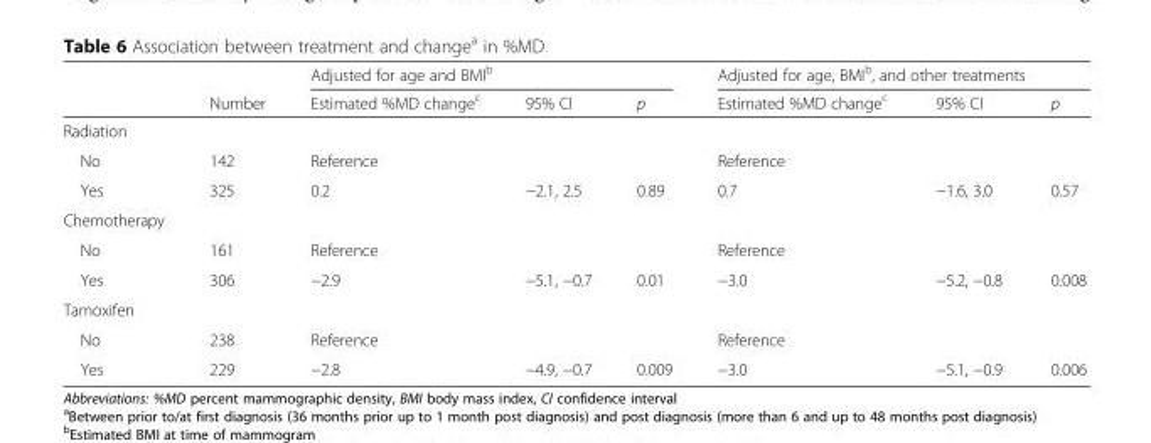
<table><thead><tr><td rowspan="2"></td><td rowspan="2">Number</td><td colspan="3">Adjusted for age and BMI<sup>b</sup></td><td colspan="3">Adjusted for age, BMI<sup>b</sup>, and other treatments</td></tr><tr><td>Estimated %MD change<sup>c</sup></td><td>95% CI</td><td>p</td><td>Estimated %MD change<sup>c</sup></td><td>95% CI</td><td>p</td></tr></thead><tbody><tr><td colspan="8">Radiation</td></tr><tr><td>No</td><td>142</td><td>Reference</td><td></td><td></td><td>Reference</td><td></td><td></td></tr><tr><td>Yes</td><td>325</td><td>0.2</td><td>−2.1, 2.5</td><td>0.89</td><td>0.7</td><td>−1.6, 3.0</td><td>0.57</td></tr><tr><td colspan="8">Chemotherapy</td></tr><tr><td>No</td><td>161</td><td>Reference</td><td></td><td></td><td>Reference</td><td></td><td></td></tr><tr><td>Yes</td><td>306</td><td>−2.9</td><td>−5.1, −0.7</td><td>0.01</td><td>−3.0</td><td>−5.2, −0.8</td><td>0.008</td></tr><tr><td colspan="8">Tamoxifen</td></tr><tr><td>No</td><td>238</td><td>Reference</td><td></td><td></td><td>Reference</td><td></td><td></td></tr><tr><td>Yes</td><td>229</td><td>−2.8</td><td>−4.9, −0.7</td><td>0.009</td><td>−3.0</td><td>−5.1, −0.9</td><td>0.006</td></tr></tbody></table>